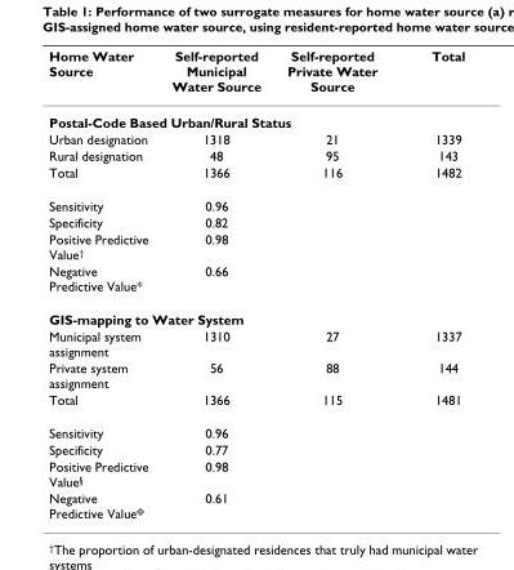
<table><thead><tr><td>Home Water Source</td><td>Self-reported Municipal Water Source</td><td>Self-reported Private Water Source</td><td>Total</td></tr></thead><tbody><tr><td colspan="4">Postal-Code Based Urban/Rural Status</td></tr><tr><td>Urban designation</td><td>1318</td><td>21</td><td>1339</td></tr><tr><td>Rural designation</td><td>48</td><td>95</td><td>143</td></tr><tr><td>Total</td><td>1366</td><td>116</td><td>1482</td></tr><tr><td>Sensitivity</td><td>0.96</td><td></td><td></td></tr><tr><td>Specificity</td><td>0.82</td><td></td><td></td></tr><tr><td>Positive Predictive Value<sup>†</sup></td><td>0.98</td><td></td><td></td></tr><tr><td>Negative Predictive Value*</td><td>0.66</td><td></td><td></td></tr><tr><td colspan="4">GIS-mapping to Water System</td></tr><tr><td>Municipal system assignment</td><td>1310</td><td>27</td><td>1337</td></tr><tr><td>Private system assignment</td><td>56</td><td>88</td><td>144</td></tr><tr><td>Total</td><td>1366</td><td>115</td><td>1481</td></tr><tr><td>Sensitivity</td><td>0.96</td><td></td><td></td></tr><tr><td>Specificity</td><td>0.77</td><td></td><td></td></tr><tr><td>Positive Predictive Value<sup>§</sup></td><td>0.98</td><td></td><td></td></tr><tr><td>Negative Predictive Value<sup>Φ</sup></td><td>0.61</td><td></td><td></td></tr></tbody></table>